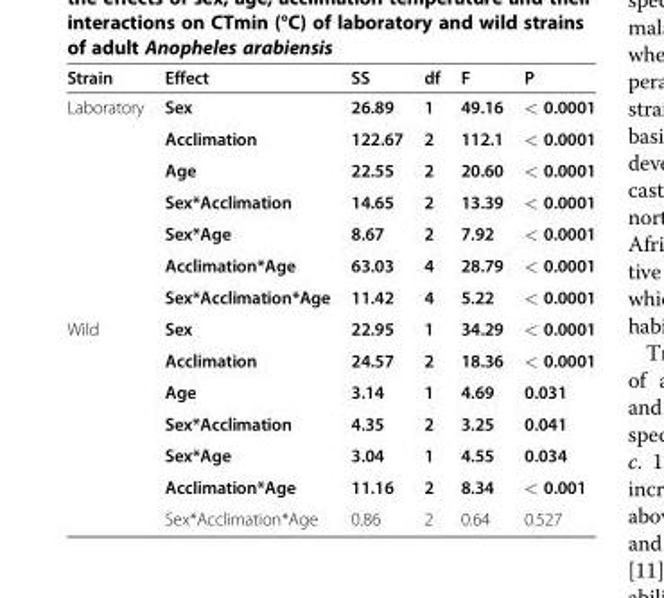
<table><thead><tr><td>Strain</td><td>Effect</td><td>SS</td><td>df</td><td>F</td><td>P</td></tr></thead><tbody><tr><td rowspan="7">Laboratory</td><td>Sex</td><td>26.89</td><td>1</td><td>49.16</td><td>&lt; 0.0001</td></tr><tr><td>Acclimation</td><td>122.67</td><td>2</td><td>112.1</td><td>&lt; 0.0001</td></tr><tr><td>Age</td><td>22.55</td><td>2</td><td>20.60</td><td>&lt; 0.0001</td></tr><tr><td>Sex*Acclimation</td><td>14.65</td><td>2</td><td>13.39</td><td>&lt; 0.0001</td></tr><tr><td>Sex*Age</td><td>8.67</td><td>2</td><td>7.92</td><td>&lt; 0.0001</td></tr><tr><td>Acclimation*Age</td><td>63.03</td><td>4</td><td>28.79</td><td>&lt; 0.0001</td></tr><tr><td>Sex*Acclimation*Age</td><td>11.42</td><td>4</td><td>5.22</td><td>&lt; 0.0001</td></tr><tr><td rowspan="7">Wild</td><td>Sex</td><td>22.95</td><td>1</td><td>34.29</td><td>&lt; 0.0001</td></tr><tr><td>Acclimation</td><td>24.57</td><td>2</td><td>18.36</td><td>&lt; 0.0001</td></tr><tr><td>Age</td><td>3.14</td><td>1</td><td>4.69</td><td>0.031</td></tr><tr><td>Sex*Acclimation</td><td>4.35</td><td>2</td><td>3.25</td><td>0.041</td></tr><tr><td>Sex*Age</td><td>3.04</td><td>1</td><td>4.55</td><td>0.034</td></tr><tr><td>Acclimation*Age</td><td>11.16</td><td>2</td><td>8.34</td><td>&lt; 0.001</td></tr><tr><td>Sex*Acclimation*Age</td><td>0.86</td><td>2</td><td>0.64</td><td>0.527</td></tr></tbody></table>